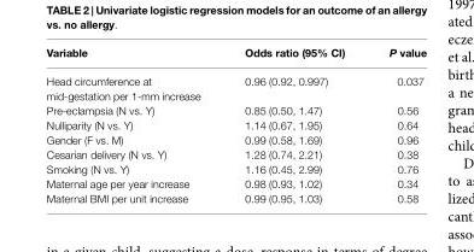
<table><thead><tr><td>Variable</td><td>Odds ratio (95% CI)</td><td>P value</td></tr></thead><tbody><tr><td>Head circumference at mid-gestation per 1-mm increase</td><td>0.96 (0.92, 0.997)</td><td>0.037</td></tr><tr><td>Pre-eclampsia (N vs. Y)</td><td>0.85 (0.50, 1.47)</td><td>0.56</td></tr><tr><td>Nulliparity (N vs. Y)</td><td>1.14 (0.67, 1.95)</td><td>0.64</td></tr><tr><td>Gender (F vs. M)</td><td>0.99 (0.58, 1.69)</td><td>0.96</td></tr><tr><td>Cesarian delivery (N vs. Y)</td><td>1.28 (0.74, 2.21)</td><td>0.38</td></tr><tr><td>Smoking (N vs. Y)</td><td>1.16 (0.45, 2.99)</td><td>0.76</td></tr><tr><td>Maternal age per year increase</td><td>0.98 (0.93, 1.02)</td><td>0.34</td></tr><tr><td>Maternal BMI per unit increase</td><td>0.99 (0.95, 1.03)</td><td>0.58</td></tr></tbody></table>